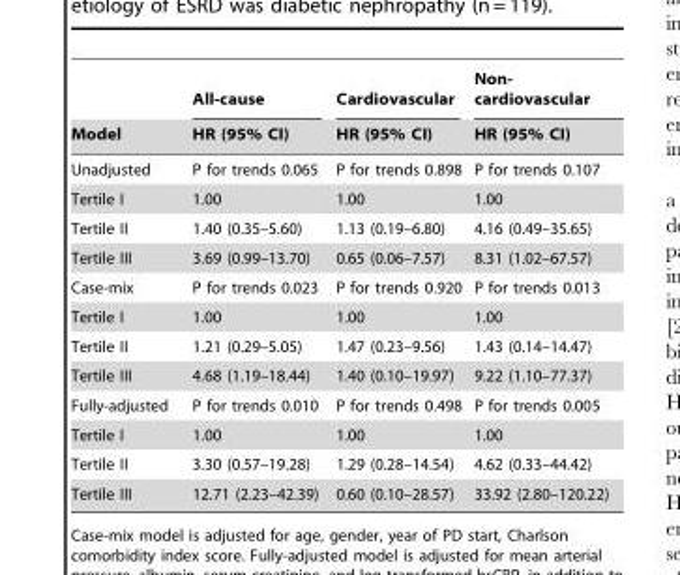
<table><thead><tr><td rowspan="2">Model</td><td rowspan="2">All-cause HR (95% CI)</td><td rowspan="2">Cardiovascular HR (95% CI)</td><td rowspan="2">Non- cardiovascular HR (95% CI)</td></tr><tr></tr></thead><tbody><tr><td>Unadjusted</td><td>P for trends 0.065</td><td>P for trends 0.898</td><td>P for trends 0.107</td></tr><tr><td>Tertile I</td><td>1.00</td><td>1.00</td><td>1.00</td></tr><tr><td>Tertile II</td><td>1.40 (0.35–5.60)</td><td>1.13 (0.19–6.80)</td><td>4.16 (0.49–35.65)</td></tr><tr><td>Tertile III</td><td>3.69 (0.99–13.70)</td><td>0.65 (0.06–7.57)</td><td>8.31 (1.02–67.57)</td></tr><tr><td>Case-mix</td><td>P for trends 0.023</td><td>P for trends 0.920</td><td>P for trends 0.013</td></tr><tr><td>Tertile I</td><td>1.00</td><td>1.00</td><td>1.00</td></tr><tr><td>Tertile II</td><td>1.21 (0.29–5.05)</td><td>1.47 (0.23–9.56)</td><td>1.43 (0.14–14.47)</td></tr><tr><td>Tertile III</td><td>4.68 (1.19–18.44)</td><td>1.40 (0.10–19.97)</td><td>9.22 (1.10–77.37)</td></tr><tr><td>Fully-adjusted</td><td>P for trends 0.010</td><td>P for trends 0.498</td><td>P for trends 0.005</td></tr><tr><td>Tertile I</td><td>1.00</td><td>1.00</td><td>1.00</td></tr><tr><td>Tertile II</td><td>3.30 (0.57–19.28)</td><td>1.29 (0.28–14.54)</td><td>4.62 (0.33–44.42)</td></tr><tr><td>Tertile III</td><td>12.71 (2.23–42.39)</td><td>0.60 (0.10–28.57)</td><td>33.92 (2.80–120.22)</td></tr></tbody></table>